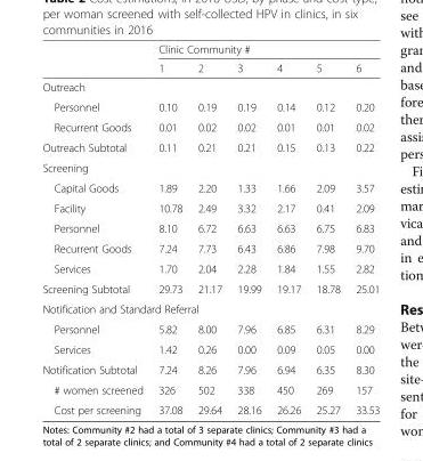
<table><thead><tr><td rowspan="2"></td><td colspan="6">Clinic Community #</td></tr><tr><td>1</td><td>2</td><td>3</td><td>4</td><td>5</td><td>6</td></tr></thead><tbody><tr><td colspan="7">Outreach</td></tr><tr><td>Personnel</td><td>0.10</td><td>0.19</td><td>0.19</td><td>0.14</td><td>0.12</td><td>0.20</td></tr><tr><td>Recurrent Goods</td><td>0.01</td><td>0.02</td><td>0.02</td><td>0.01</td><td>0.01</td><td>0.02</td></tr><tr><td>Outreach Subtotal</td><td>0.11</td><td>0.21</td><td>0.21</td><td>0.15</td><td>0.13</td><td>0.22</td></tr><tr><td colspan="7">Screening</td></tr><tr><td>Capital Goods</td><td>1.89</td><td>2.20</td><td>1.33</td><td>1.66</td><td>2.09</td><td>3.57</td></tr><tr><td>Facility</td><td>10.78</td><td>2.49</td><td>3.32</td><td>2.17</td><td>0.41</td><td>2.09</td></tr><tr><td>Personnel</td><td>8.10</td><td>6.72</td><td>6.63</td><td>6.63</td><td>6.75</td><td>6.83</td></tr><tr><td>Recurrent Goods</td><td>7.24</td><td>7.73</td><td>6.43</td><td>6.86</td><td>7.98</td><td>9.70</td></tr><tr><td>Services</td><td>1.70</td><td>2.04</td><td>2.28</td><td>1.84</td><td>1.55</td><td>2.82</td></tr><tr><td>Screening Subtotal</td><td>29.73</td><td>21.17</td><td>19.99</td><td>19.17</td><td>18.78</td><td>25.01</td></tr><tr><td colspan="7">Notification and Standard Referral</td></tr><tr><td>Personnel</td><td>5.82</td><td>8.00</td><td>7.96</td><td>6.85</td><td>6.31</td><td>8.29</td></tr><tr><td>Services</td><td>1.42</td><td>0.26</td><td>0.00</td><td>0.09</td><td>0.05</td><td>0.00</td></tr><tr><td>Notification Subtotal</td><td>7.24</td><td>8.26</td><td>7.96</td><td>6.94</td><td>6.35</td><td>8.30</td></tr><tr><td># women screened</td><td>326</td><td>502</td><td>338</td><td>450</td><td>269</td><td>157</td></tr><tr><td>Cost per screening</td><td>37.08</td><td>29.64</td><td>28.16</td><td>26.26</td><td>25.27</td><td>33.53</td></tr></tbody></table>